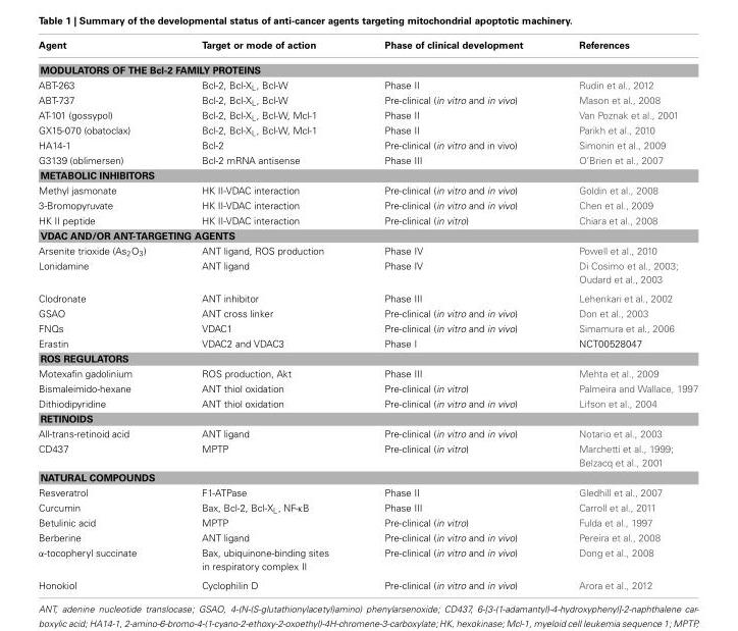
<table><thead><tr><td>Agent</td><td>Target or mode of action</td><td>Phase of clinical development</td><td>References</td></tr></thead><tbody><tr><td colspan="4">MODULATORS OF THE Bcl-2 FAMILY PROTEINS</td></tr><tr><td>ABT-263</td><td>Bcl-2, Bcl-X<sub>L</sub>, Bcl-W</td><td>Phase II</td><td>Rudin et al., 2012</td></tr><tr><td>ABT-737</td><td>Bcl-2, Bcl-X<sub>L</sub>, Bcl-W</td><td>Pre-clinical (in vitro and in vivo)</td><td>Mason et al., 2008</td></tr><tr><td>AT-101 (gossypol)</td><td>Bcl-2, Bcl-X<sub>L</sub>, Bcl-W, Mcl-1</td><td>Phase II</td><td>Van Poznak et al., 2001</td></tr><tr><td>GX15-070 (obatoclax)</td><td>Bcl-2, Bcl-X<sub>L</sub>, Bcl-W, Mcl-1</td><td>Phase II</td><td>Parikh et al., 2010</td></tr><tr><td>HA14-1</td><td>Bcl-2</td><td>Pre-clinical (in vitro and in vivo)</td><td>Simonin et al., 2009</td></tr><tr><td>G3139 (oblimersen)</td><td>Bcl-2 mRNA antisense</td><td>Phase III</td><td>O’Brien et al., 2007</td></tr><tr><td colspan="4">METABOLIC INHIBITORS</td></tr><tr><td>Methyl jasmonate</td><td>HK II-VDAC interaction</td><td>Pre-clinical (in vitro and in vivo)</td><td>Goldin et al., 2008</td></tr><tr><td>3-Bromopyruvate</td><td>HK II-VDAC interaction</td><td>Pre-clinical (in vitro and in vivo)</td><td>Chen et al., 2009</td></tr><tr><td>HK II peptide</td><td>HK II-VDAC interaction</td><td>Pre-clinical (in vitro)</td><td>Chiara et al., 2008</td></tr><tr><td colspan="4">VDAC AND/OR ANT-TARGETING AGENTS</td></tr><tr><td>Arsenite trioxide (As<sub>2</sub>O<sub>3</sub>)</td><td>ANT ligand, ROS production</td><td>Phase IV</td><td>Powell et al., 2010</td></tr><tr><td>Lonidamine</td><td>ANT ligand</td><td>Phase IV</td><td>Di Cosimo et al., 2003; Oudard et al., 2003</td></tr><tr><td>Clodronate</td><td>ANT inhibitor</td><td>Phase III</td><td>Lehenkari et al., 2002</td></tr><tr><td>GSAO</td><td>ANT cross linker</td><td>Pre-clinical (in vitro and in vivo)</td><td>Don et al., 2003</td></tr><tr><td>FNQs</td><td>VDAC1</td><td>Pre-clinical (in vitro and in vivo)</td><td>Simamura et al., 2006</td></tr><tr><td>Erastin</td><td>VDAC2 and VDAC3</td><td>Phase I</td><td>NCT00528047</td></tr><tr><td colspan="4">ROS REGULATORS</td></tr><tr><td>Motexafin gadolinium</td><td>ROS production, Akt</td><td>Phase III</td><td>Mehta et al., 2009</td></tr><tr><td>Bismaleimido-hexane</td><td>ANT thiol oxidation</td><td>Pre-clinical (in vitro)</td><td>Palmeira and Wallace, 1997</td></tr><tr><td>Dithiodipyridine</td><td>ANT thiol oxidation</td><td>Pre-clinical (in vitro and in vivo)</td><td>Lifson et al., 2004</td></tr><tr><td colspan="4">RETINOIDS</td></tr><tr><td>All-trans-retinoid acid</td><td>ANT ligand</td><td>Pre-clinical (in vitro and in vivo)</td><td>Notario et al., 2003</td></tr><tr><td>CD437</td><td>MPTP</td><td>Pre-clinical (in vitro)</td><td>Marchetti et al., 1999; Belzacq et al., 2001</td></tr><tr><td colspan="4">NATURAL COMPOUNDS</td></tr><tr><td>Resveratrol</td><td>F1-ATPase</td><td>Phase II</td><td>Gledhill et al., 2007</td></tr><tr><td>Curcumin</td><td>Bax, Bcl-2, Bcl-X<sub>L</sub>, NF-κB</td><td>Phase III</td><td>Carroll et al., 2011</td></tr><tr><td>Betulinic acid</td><td>MPTP</td><td>Pre-clinical (in vitro)</td><td>Fulda et al., 1997</td></tr><tr><td>Berberine</td><td>ANT ligand</td><td>Pre-clinical (in vitro and in vivo)</td><td>Pereira et al., 2008</td></tr><tr><td>α-tocopheryl succinate</td><td>Bax, ubiquinone-binding sites in respiratory complex II</td><td>Pre-clinical (in vitro and in vivo)</td><td>Dong et al., 2008</td></tr><tr><td>Honokiol</td><td>Cyclophilin D</td><td>Pre-clinical (in vitro and in vivo)</td><td>Arora et al., 2012</td></tr></tbody></table>